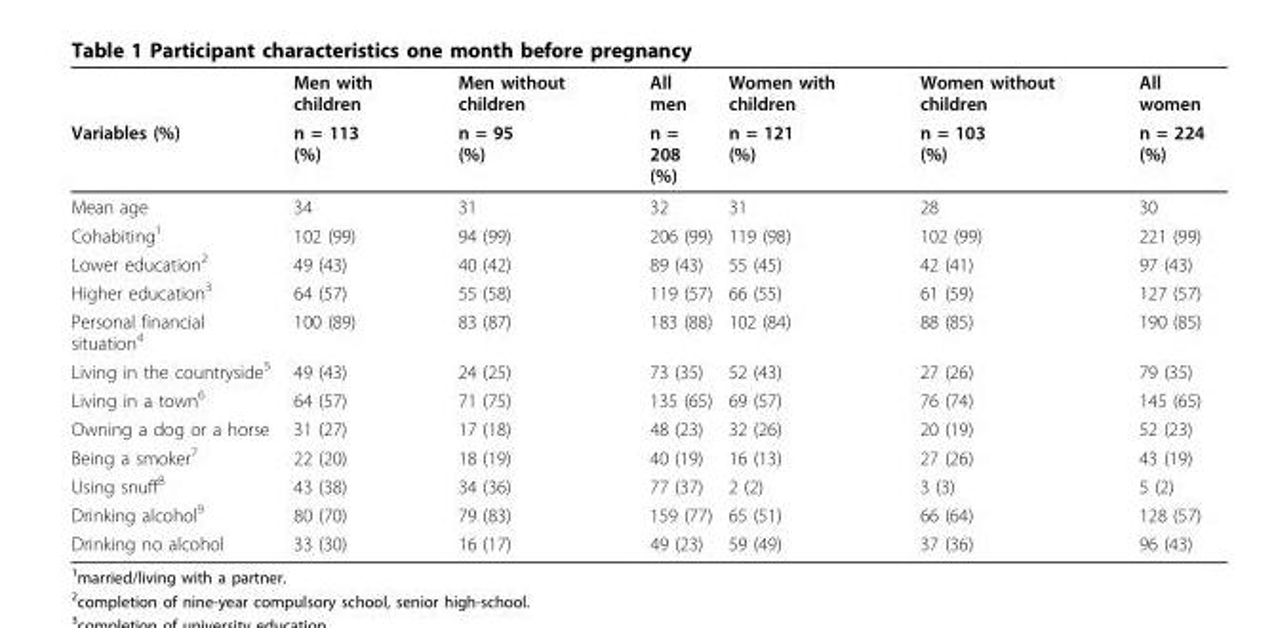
<table><thead><tr><td rowspan="2">Variables (%)</td><td rowspan="2">Men with children n = 113 (%)</td><td rowspan="2">Men without children n = 95 (%)</td><td rowspan="2">All men n = 208 (%)</td><td rowspan="2">Women with children n = 121 (%)</td><td rowspan="2">Women without children n = 103 (%)</td><td rowspan="2">All women n = 224 (%)</td></tr><tr></tr></thead><tbody><tr><td>Mean age</td><td>34</td><td>31</td><td>32</td><td>31</td><td>28</td><td>30</td></tr><tr><td>Cohabiting<sup>1</sup></td><td>102 (99)</td><td>94 (99)</td><td>206 (99)</td><td>119 (98)</td><td>102 (99)</td><td>221 (99)</td></tr><tr><td>Lower education<sup>2</sup></td><td>49 (43)</td><td>40 (42)</td><td>89 (43)</td><td>55 (45)</td><td>42 (41)</td><td>97 (43)</td></tr><tr><td>Higher education<sup>3</sup></td><td>64 (57)</td><td>55 (58)</td><td>119 (57)</td><td>66 (55)</td><td>61 (59)</td><td>127 (57)</td></tr><tr><td>Personal financial situation<sup>4</sup></td><td>100 (89)</td><td>83 (87)</td><td>183 (88)</td><td>102 (84)</td><td>88 (85)</td><td>190 (85)</td></tr><tr><td>Living in the countryside<sup>5</sup></td><td>49 (43)</td><td>24 (25)</td><td>73 (35)</td><td>52 (43)</td><td>27 (26)</td><td>79 (35)</td></tr><tr><td>Living in a town<sup>6</sup></td><td>64 (57)</td><td>71 (75)</td><td>135 (65)</td><td>69 (57)</td><td>76 (74)</td><td>145 (65)</td></tr><tr><td>Owning a dog or a horse</td><td>31 (27)</td><td>17 (18)</td><td>48 (23)</td><td>32 (26)</td><td>20 (19)</td><td>52 (23)</td></tr><tr><td>Being a smoker<sup>7</sup></td><td>22 (20)</td><td>18 (19)</td><td>40 (19)</td><td>16 (13)</td><td>27 (26)</td><td>43 (19)</td></tr><tr><td>Using snuff<sup>8</sup></td><td>43 (38)</td><td>34 (36)</td><td>77 (37)</td><td>2 (2)</td><td>3 (3)</td><td>5 (2)</td></tr><tr><td>Drinking alcohol<sup>9</sup></td><td>80 (70)</td><td>79 (83)</td><td>159 (77)</td><td>65 (51)</td><td>66 (64)</td><td>128 (57)</td></tr><tr><td>Drinking no alcohol</td><td>33 (30)</td><td>16 (17)</td><td>49 (23)</td><td>59 (49)</td><td>37 (36)</td><td>96 (43)</td></tr></tbody></table>